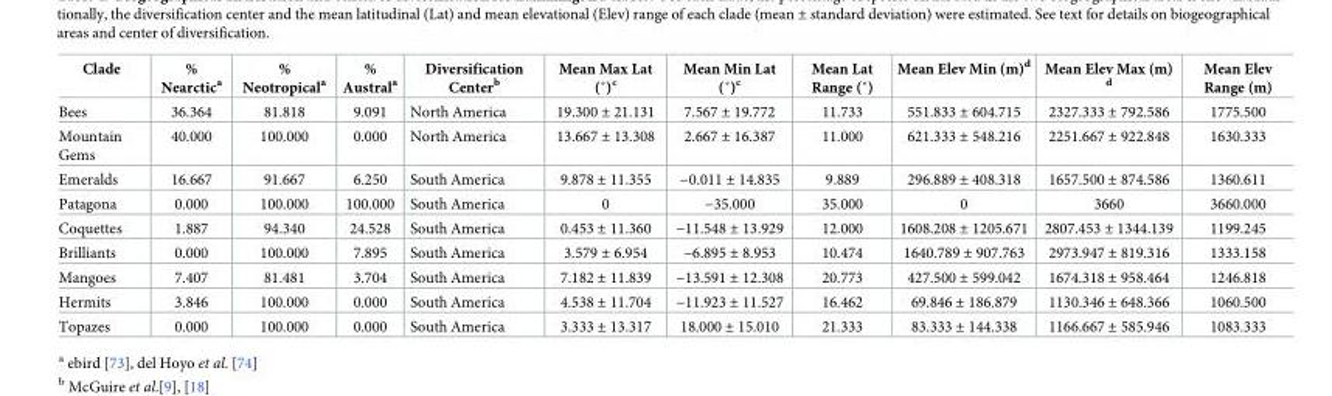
<table><thead><tr><td>Clade</td><td>% Nearctic<sup>a</sup></td><td>% Neotropical<sup>a</sup></td><td>% Austral<sup>a</sup></td><td>Diversification Center<sup>b</sup></td><td>Mean Max Lat (˚)c</td><td>Mean Min Lat (˚)c</td><td>Mean Lat Range (˚)</td><td>Mean Elev Min (m)<sup>d</sup></td><td>Mean Elev Max (m) <sup>d</sup></td><td>Mean Elev Range (m)</td></tr></thead><tbody><tr><td>Bees</td><td>36.364</td><td>81.818</td><td>9.091</td><td>North America</td><td>19.300 ± 21.131</td><td>7.567 ± 19.772</td><td>11.733</td><td>551.833 ± 604.715</td><td>2327.333 ± 792.586</td><td>1775.500</td></tr><tr><td>Mountain Gems</td><td>40.000</td><td>100.000</td><td>0.000</td><td>North America</td><td>13.667 ± 13.308</td><td>2.667 ± 16.387</td><td>11.000</td><td>621.333 ± 548.216</td><td>2251.667 ± 922.848</td><td>1630.333</td></tr><tr><td>Emeralds</td><td>16.667</td><td>91.667</td><td>6.250</td><td>South America</td><td>9.878 ± 11.355</td><td>−0.011 ± 14.835</td><td>9.889</td><td>296.889 ± 408.318</td><td>1657.500 ± 874.586</td><td>1360.611</td></tr><tr><td>Patagona</td><td>0.000</td><td>100.000</td><td>100.000</td><td>South America</td><td>0</td><td>−35.000</td><td>35.000</td><td>0</td><td>3660</td><td>3660.000</td></tr><tr><td>Coquettes</td><td>1.887</td><td>94.340</td><td>24.528</td><td>South America</td><td>0.453 ± 11.360</td><td>−11.548 ± 13.929</td><td>12.000</td><td>1608.208 ± 1205.671</td><td>2807.453 ± 1344.139</td><td>1199.245</td></tr><tr><td>Brilliants</td><td>0.000</td><td>100.000</td><td>7.895</td><td>South America</td><td>3.579 ± 6.954</td><td>−6.895 ± 8.953</td><td>10.474</td><td>1640.789 ± 907.763</td><td>2973.947 ± 819.316</td><td>1333.158</td></tr><tr><td>Mangoes</td><td>7.407</td><td>81.481</td><td>3.704</td><td>South America</td><td>7.182 ± 11.839</td><td>−13.591 ± 12.308</td><td>20.773</td><td>427.500 ± 599.042</td><td>1674.318 ± 958.464</td><td>1246.818</td></tr><tr><td>Hermits</td><td>3.846</td><td>100.000</td><td>0.000</td><td>South America</td><td>4.538 ± 11.704</td><td>−11.923 ± 11.527</td><td>16.462</td><td>69.846 ± 186.879</td><td>1130.346 ± 648.366</td><td>1060.500</td></tr><tr><td>Topazes</td><td>0.000</td><td>100.000</td><td>0.000</td><td>South America</td><td>3.333 ± 13.317</td><td>18.000 ± 15.010</td><td>21.333</td><td>83.333 ± 144.338</td><td>1166.667 ± 585.946</td><td>1083.333</td></tr></tbody></table>